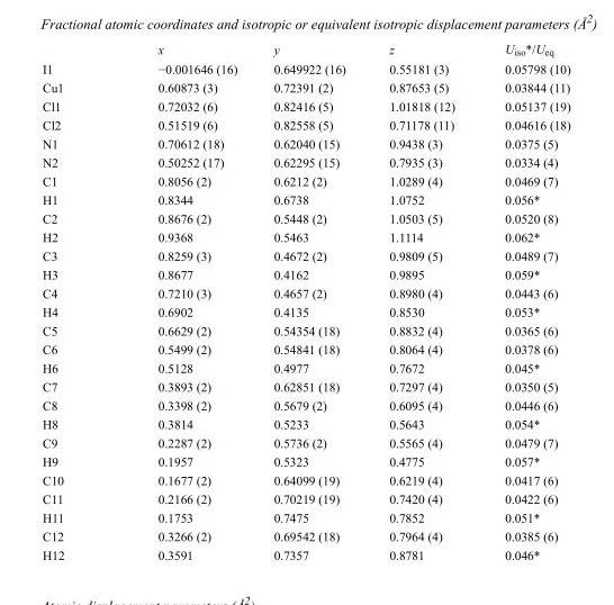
<table><thead><tr><td></td><td>x</td><td>y</td><td>z</td><td>U<sub>iso</sub>*/U<sub>eq</sub></td></tr></thead><tbody><tr><td>I1</td><td>−0.001646 (16)</td><td>0.649922 (16)</td><td>0.55181 (3)</td><td>0.05798 (10)</td></tr><tr><td>Cu1</td><td>0.60873 (3)</td><td>0.72391 (2)</td><td>0.87653 (5)</td><td>0.03844 (11)</td></tr><tr><td>Cl1</td><td>0.72032 (6)</td><td>0.82416 (5)</td><td>1.01818 (12)</td><td>0.05137 (19)</td></tr><tr><td>Cl2</td><td>0.51519 (6)</td><td>0.82558 (5)</td><td>0.71178 (11)</td><td>0.04616 (18)</td></tr><tr><td>N1</td><td>0.70612 (18)</td><td>0.62040 (15)</td><td>0.9438 (3)</td><td>0.0375 (5)</td></tr><tr><td>N2</td><td>0.50252 (17)</td><td>0.62295 (15)</td><td>0.7935 (3)</td><td>0.0334 (4)</td></tr><tr><td>C1</td><td>0.8056 (2)</td><td>0.6212 (2)</td><td>1.0289 (4)</td><td>0.0469 (7)</td></tr><tr><td>H1</td><td>0.8344</td><td>0.6738</td><td>1.0752</td><td>0.056*</td></tr><tr><td>C2</td><td>0.8676 (2)</td><td>0.5448 (2)</td><td>1.0503 (5)</td><td>0.0520 (8)</td></tr><tr><td>H2</td><td>0.9368</td><td>0.5463</td><td>1.1114</td><td>0.062*</td></tr><tr><td>C3</td><td>0.8259 (3)</td><td>0.4672 (2)</td><td>0.9809 (5)</td><td>0.0489 (7)</td></tr><tr><td>H3</td><td>0.8677</td><td>0.4162</td><td>0.9895</td><td>0.059*</td></tr><tr><td>C4</td><td>0.7210 (3)</td><td>0.4657 (2)</td><td>0.8980 (4)</td><td>0.0443 (6)</td></tr><tr><td>H4</td><td>0.6902</td><td>0.4135</td><td>0.8530</td><td>0.053*</td></tr><tr><td>C5</td><td>0.6629 (2)</td><td>0.54354 (18)</td><td>0.8832 (4)</td><td>0.0365 (6)</td></tr><tr><td>C6</td><td>0.5499 (2)</td><td>0.54841 (18)</td><td>0.8064 (4)</td><td>0.0378 (6)</td></tr><tr><td>H6</td><td>0.5128</td><td>0.4977</td><td>0.7672</td><td>0.045*</td></tr><tr><td>C7</td><td>0.3893 (2)</td><td>0.62851 (18)</td><td>0.7297 (4)</td><td>0.0350 (5)</td></tr><tr><td>C8</td><td>0.3398 (2)</td><td>0.5679 (2)</td><td>0.6095 (4)</td><td>0.0446 (6)</td></tr><tr><td>H8</td><td>0.3814</td><td>0.5233</td><td>0.5643</td><td>0.054*</td></tr><tr><td>C9</td><td>0.2287 (2)</td><td>0.5736 (2)</td><td>0.5565 (4)</td><td>0.0479 (7)</td></tr><tr><td>H9</td><td>0.1957</td><td>0.5323</td><td>0.4775</td><td>0.057*</td></tr><tr><td>C10</td><td>0.1677 (2)</td><td>0.64099 (19)</td><td>0.6219 (4)</td><td>0.0417 (6)</td></tr><tr><td>C11</td><td>0.2166 (2)</td><td>0.70219 (19)</td><td>0.7420 (4)</td><td>0.0422 (6)</td></tr><tr><td>H11</td><td>0.1753</td><td>0.7475</td><td>0.7852</td><td>0.051*</td></tr><tr><td>C12</td><td>0.3266 (2)</td><td>0.69542 (18)</td><td>0.7964 (4)</td><td>0.0385 (6)</td></tr><tr><td>H12</td><td>0.3591</td><td>0.7357</td><td>0.8781</td><td>0.046*</td></tr></tbody></table>